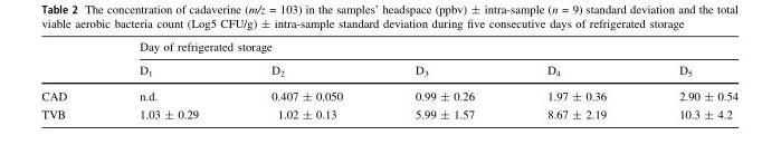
<table><thead><tr><td rowspan="2"></td><td colspan="5">Day of refrigerated storage</td></tr><tr><td>D<sub>1</sub></td><td>D<sub>2</sub></td><td>D<sub>3</sub></td><td>D<sub>4</sub></td><td>D<sub>5</sub></td></tr></thead><tbody><tr><td>CAD</td><td>n.d.</td><td>0.407 ± 0.050</td><td>0.99 ± 0.26</td><td>1.97 ± 0.36</td><td>2.90 ± 0.54</td></tr><tr><td>TVB</td><td>1.03 ± 0.29</td><td>1.02 ± 0.13</td><td>5.99 ± 1.57</td><td>8.67 ± 2.19</td><td>10.3 ± 4.2</td></tr></tbody></table>